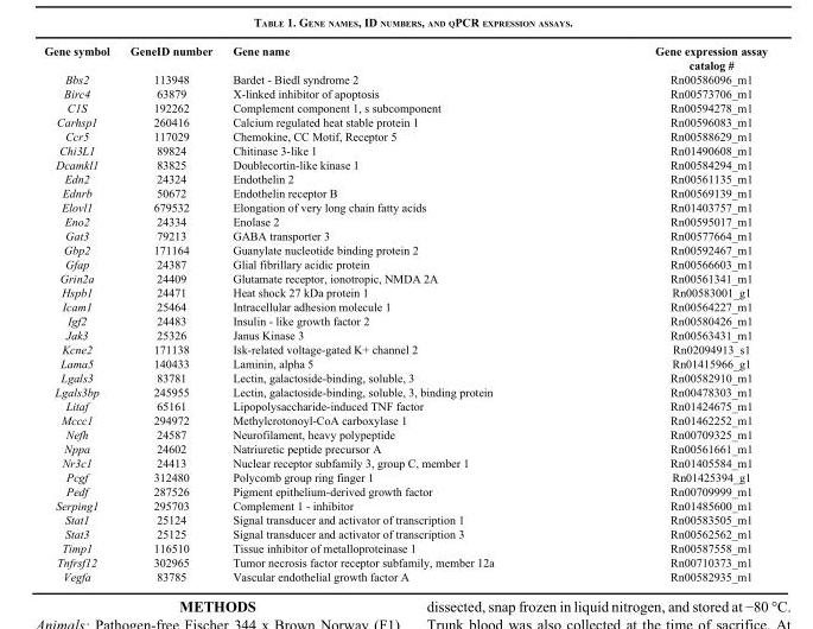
<table><thead><tr><td>Gene symbol</td><td>GeneID number</td><td>Gene name</td><td>Gene expression assay catalog #</td></tr></thead><tbody><tr><td>Bbs2</td><td>113948</td><td>Bardet - Biedl syndrome 2</td><td>Rn00586096_m1</td></tr><tr><td>Birc4</td><td>63879</td><td>X-linked inhibitor of apoptosis</td><td>Rn00573706_m1</td></tr><tr><td>C1S</td><td>192262</td><td>Complement component 1, s subcomponent</td><td>Rn00594278_m1</td></tr><tr><td>Carhsp1</td><td>260416</td><td>Calcium regulated heat stable protein 1</td><td>Rn00596083_m1</td></tr><tr><td>Ccr5</td><td>117029</td><td>Chemokine, CC Motif, Receptor 5</td><td>Rn00588629_m1</td></tr><tr><td>Chi3L1</td><td>89824</td><td>Chitinase 3-like 1</td><td>Rn01490608_m1</td></tr><tr><td>Dcamkl1</td><td>83825</td><td>Doublecortin-like kinase 1</td><td>Rn00584294_m1</td></tr><tr><td>Edn2</td><td>24324</td><td>Endothelin 2</td><td>Rn00561135_m1</td></tr><tr><td>Ednrb</td><td>50672</td><td>Endothelin receptor B</td><td>Rn00569139_m1</td></tr><tr><td>Elovl1</td><td>679532</td><td>Elongation of very long chain fatty acids</td><td>Rn01403757_m1</td></tr><tr><td>Eno2</td><td>24334</td><td>Enolase 2</td><td>Rn00595017_m1</td></tr><tr><td>Gat3</td><td>79213</td><td>GABA transporter 3</td><td>Rn00577664_m1</td></tr><tr><td>Gbp2</td><td>171164</td><td>Guanylate nucleotide binding protein 2</td><td>Rn00592467_m1</td></tr><tr><td>Gfap</td><td>24387</td><td>Glial fibrillary acidic protein</td><td>Rn00566603_m1</td></tr><tr><td>Grin2a</td><td>24409</td><td>Glutamate receptor, ionotropic, NMDA 2A</td><td>Rn00561341_m1</td></tr><tr><td>Hspb1</td><td>24471</td><td>Heat shock 27 kDa protein 1</td><td>Rn00583001_g1</td></tr><tr><td>Icam1</td><td>25464</td><td>Intracellular adhesion molecule 1</td><td>Rn00564227_m1</td></tr><tr><td>Igf2</td><td>24483</td><td>Insulin - like growth factor 2</td><td>Rn00580426_m1</td></tr><tr><td>Jak3</td><td>25326</td><td>Janus Kinase 3</td><td>Rn00563431_m1</td></tr><tr><td>Kcne2</td><td>171138</td><td>Isk-related voltage-gated K+ channel 2</td><td>Rn02094913_s1</td></tr><tr><td>Lama5</td><td>140433</td><td>Laminin, alpha 5</td><td>Rn01415966_g1</td></tr><tr><td>Lgals3</td><td>83781</td><td>Lectin, galactoside-binding, soluble, 3</td><td>Rn00582910_m1</td></tr><tr><td>Lgals3bp</td><td>245955</td><td>Lectin, galactoside-binding, soluble, 3, binding protein</td><td>Rn00478303_m1</td></tr><tr><td>Litaf</td><td>65161</td><td>Lipopolysaccharide-induced TNF factor</td><td>Rn01424675_m1</td></tr><tr><td>Mccc1</td><td>294972</td><td>Methylcrotonoyl-CoA carboxylase 1</td><td>Rn01462252_m1</td></tr><tr><td>Nefh</td><td>24587</td><td>Neurofilament, heavy polypeptide</td><td>Rn00709325_m1</td></tr><tr><td>Nppa</td><td>24602</td><td>Natriuretic peptide precursor A</td><td>Rn00561661_m1</td></tr><tr><td>Nr3c1</td><td>24413</td><td>Nuclear receptor subfamily 3, group C, member 1</td><td>Rn01405584_m1</td></tr><tr><td>Pcgf</td><td>312480</td><td>Polycomb group ring finger 1</td><td>Rn01425394_g1</td></tr><tr><td>Pedf</td><td>287526</td><td>Pigment epithelium-derived growth factor</td><td>Rn00709999_m1</td></tr><tr><td>Serping1</td><td>295703</td><td>Complement 1 - inhibitor</td><td>Rn01485600_m1</td></tr><tr><td>Stat1</td><td>25124</td><td>Signal transducer and activator of transcription 1</td><td>Rn00583505_m1</td></tr><tr><td>Stat3</td><td>25125</td><td>Signal transducer and activator of transcription 3</td><td>Rn00562562_m1</td></tr><tr><td>Timp1</td><td>116510</td><td>Tissue inhibitor of metalloproteinase 1</td><td>Rn00587558_m1</td></tr><tr><td>Tnfrsf12</td><td>302965</td><td>Tumor necrosis factor receptor subfamily, member 12a</td><td>Rn00710373_m1</td></tr><tr><td>Vegfa</td><td>83785</td><td>Vascular endothelial growth factor A</td><td>Rn00582935_m1</td></tr></tbody></table>